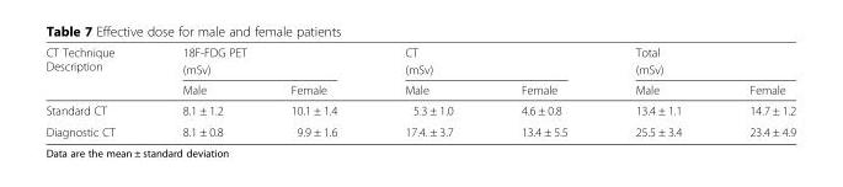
<table><thead><tr><td rowspan="3">CT Technique Description</td><td rowspan="2" colspan="2">18F-FDG PET (mSv)</td><td rowspan="2" colspan="2">CT (mSv)</td><td rowspan="2" colspan="2">Total (mSv)</td></tr><tr></tr><tr><td>Male</td><td>Female</td><td>Male</td><td>Female</td><td>Male</td><td>Female</td></tr></thead><tbody><tr><td>Standard CT</td><td>8.1 ± 1.2</td><td>10.1 ± 1.4</td><td>5.3 ± 1.0</td><td>4.6 ± 0.8</td><td>13.4 ± 1.1</td><td>14.7 ± 1.2</td></tr><tr><td>Diagnostic CT</td><td>8.1 ± 0.8</td><td>9.9 ± 1.6</td><td>17.4. ± 3.7</td><td>13.4 ± 5.5</td><td>25.5 ± 3.4</td><td>23.4 ± 4.9</td></tr></tbody></table>